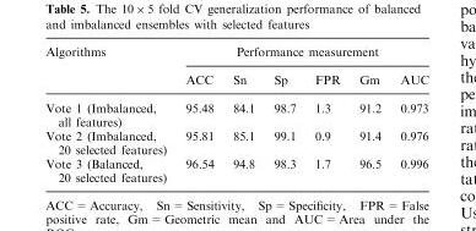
<table><thead><tr><td rowspan="2">Algorithms</td><td colspan="6">Performance measurement</td></tr><tr><td>ACC</td><td>Sn</td><td>Sp</td><td>FPR</td><td>Gm</td><td>AUC</td></tr></thead><tbody><tr><td>Vote 1 (Imbalanced, all features)</td><td>95.48</td><td>84.1</td><td>98.7</td><td>1.3</td><td>91.2</td><td>0.973</td></tr><tr><td>Vote 2 (Imbalanced, 20 selected features)</td><td>95.81</td><td>85.1</td><td>99.1</td><td>0.9</td><td>91.4</td><td>0.976</td></tr><tr><td>Vote 3 (Balanced, 20 selected features)</td><td>96.54</td><td>94.8</td><td>98.3</td><td>1.7</td><td>96.5</td><td>0.996</td></tr></tbody></table>